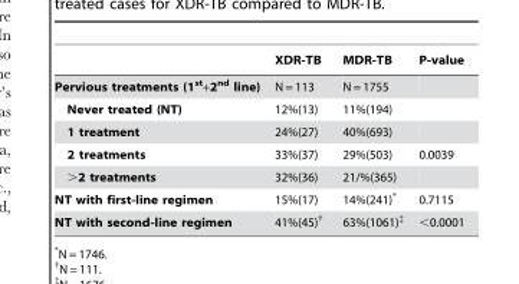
<table><thead><tr><td></td><td>XDR-TB</td><td>MDR-TB</td><td>P-value</td></tr></thead><tbody><tr><td>Pervious treatments (1<sup>st</sup>+2<sup>nd</sup> line)</td><td>N = 113</td><td>N = 1755</td><td></td></tr><tr><td>Never treated (NT)</td><td>12%(13)</td><td>11%(194)</td><td></td></tr><tr><td>1 treatment</td><td>24%(27)</td><td>40%(693)</td><td></td></tr><tr><td>2 treatments</td><td>33%(37)</td><td>29%(503)</td><td>0.0039</td></tr><tr><td>&gt;2 treatments</td><td>32%(36)</td><td>21/%(365)</td><td></td></tr><tr><td>NT with first-line regimen</td><td>15%(17)</td><td>14%(241)*</td><td>0.7115</td></tr><tr><td>NT with second-line regimen</td><td>41%(45)†</td><td>63%(1061)‡</td><td>&lt;0.0001</td></tr></tbody></table>